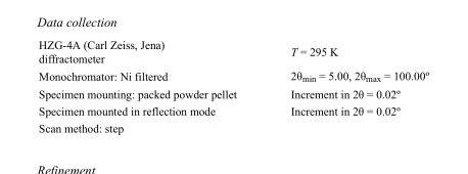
<table><tbody><tr><td>HZG-4A (Carl Zeiss, Jena) diffractometer</td><td>T = 295 K</td></tr><tr><td>Monochromator: Ni filtered</td><td>2θ<sub>min</sub> = 5.00, 2θ<sub>max</sub> = 100.00º</td></tr><tr><td>Specimen mounting: packed powder pellet</td><td>Increment in 2θ = 0.02º</td></tr><tr><td>Specimen mounted in reflection mode</td><td>Increment in 2θ = 0.02º</td></tr><tr><td>Scan method: step</td><td></td></tr></tbody></table>